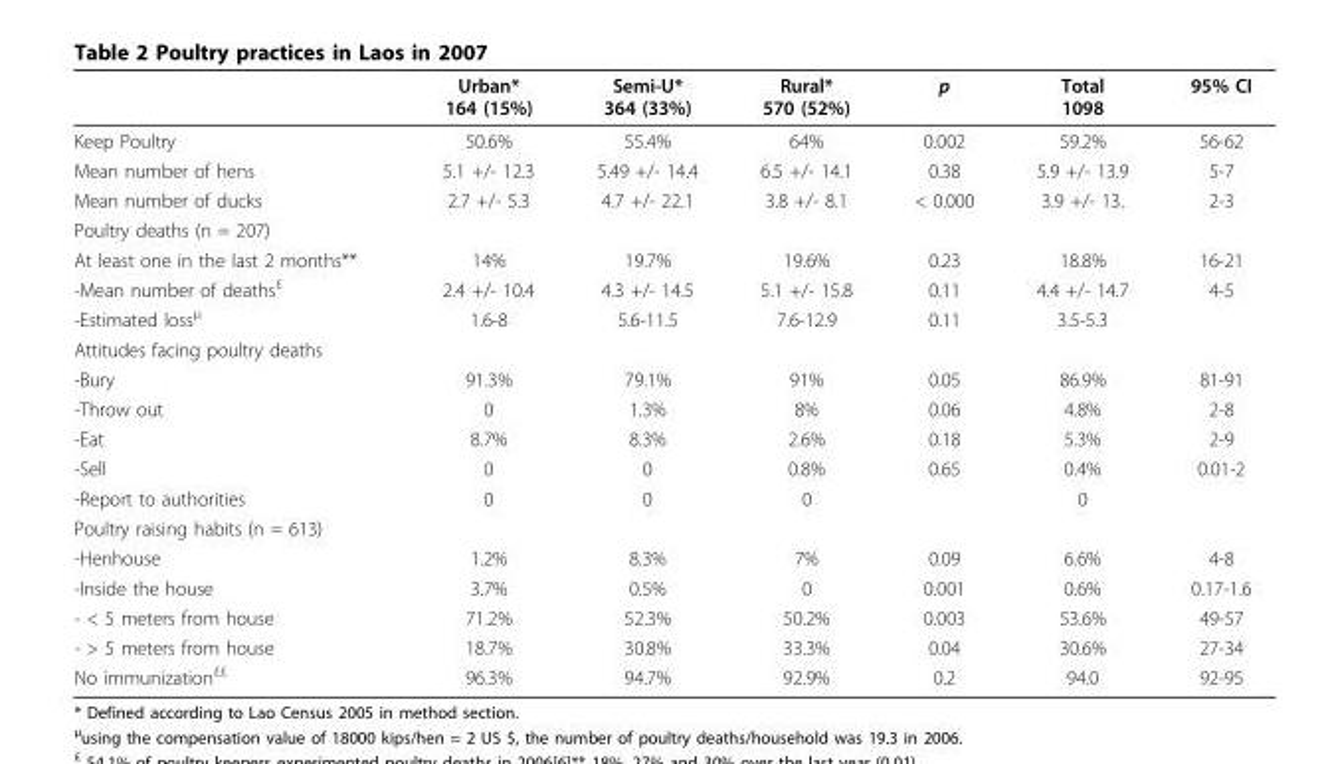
<table><thead><tr><td></td><td>Urban* 164 (15%)</td><td>Semi-U* 364 (33%)</td><td>Rural* 570 (52%)</td><td>p</td><td>Total 1098</td><td>95% CI</td></tr></thead><tbody><tr><td>Keep Poultry</td><td>50.6%</td><td>55.4%</td><td>64%</td><td>0.002</td><td>59.2%</td><td>56-62</td></tr><tr><td>Mean number of hens</td><td>5.1 +/- 12.3</td><td>5.49 +/- 14.4</td><td>6.5 +/- 14.1</td><td>0.38</td><td>5.9 +/- 13.9</td><td>5-7</td></tr><tr><td>Mean number of ducks</td><td>2.7 +/- 5.3</td><td>4.7 +/- 22.1</td><td>3.8 +/- 8.1</td><td>&lt; 0.000</td><td>3.9 +/- 13.</td><td>2-3</td></tr><tr><td colspan="7">Poultry deaths (n = 207)</td></tr><tr><td>At least one in the last 2 months**</td><td>14%</td><td>19.7%</td><td>19.6%</td><td>0.23</td><td>18.8%</td><td>16-21</td></tr><tr><td>-Mean number of deaths<sup>£</sup></td><td>2.4 +/- 10.4</td><td>4.3 +/- 14.5</td><td>5.1 +/- 15.8</td><td>0.11</td><td>4.4 +/- 14.7</td><td>4-5</td></tr><tr><td>-Estimated loss<sup>μ</sup></td><td>1.6-8</td><td>5.6-11.5</td><td>7.6-12.9</td><td>0.11</td><td>3.5-5.3</td><td></td></tr><tr><td colspan="7">Attitudes facing poultry deaths</td></tr><tr><td>-Bury</td><td>91.3%</td><td>79.1%</td><td>91%</td><td>0.05</td><td>86.9%</td><td>81-91</td></tr><tr><td>-Throw out</td><td>0</td><td>1.3%</td><td>8%</td><td>0.06</td><td>4.8%</td><td>2-8</td></tr><tr><td>-Eat</td><td>8.7%</td><td>8.3%</td><td>2.6%</td><td>0.18</td><td>5.3%</td><td>2-9</td></tr><tr><td>-Sell</td><td>0</td><td>0</td><td>0.8%</td><td>0.65</td><td>0.4%</td><td>0.01-2</td></tr><tr><td>-Report to authorities</td><td>0</td><td>0</td><td>0</td><td></td><td>0</td><td></td></tr><tr><td colspan="7">Poultry raising habits (n = 613)</td></tr><tr><td>-Henhouse</td><td>1.2%</td><td>8.3%</td><td>7%</td><td>0.09</td><td>6.6%</td><td>4-8</td></tr><tr><td>-Inside the house</td><td>3.7%</td><td>0.5%</td><td>0</td><td>0.001</td><td>0.6%</td><td>0.17-1.6</td></tr><tr><td>- &lt; 5 meters from house</td><td>71.2%</td><td>52.3%</td><td>50.2%</td><td>0.003</td><td>53.6%</td><td>49-57</td></tr><tr><td>- &gt; 5 meters from house</td><td>18.7%</td><td>30.8%</td><td>33.3%</td><td>0.04</td><td>30.6%</td><td>27-34</td></tr><tr><td>No immunization<sup>££</sup></td><td>96.3%</td><td>94.7%</td><td>92.9%</td><td>0.2</td><td>94.0</td><td>92-95</td></tr></tbody></table>